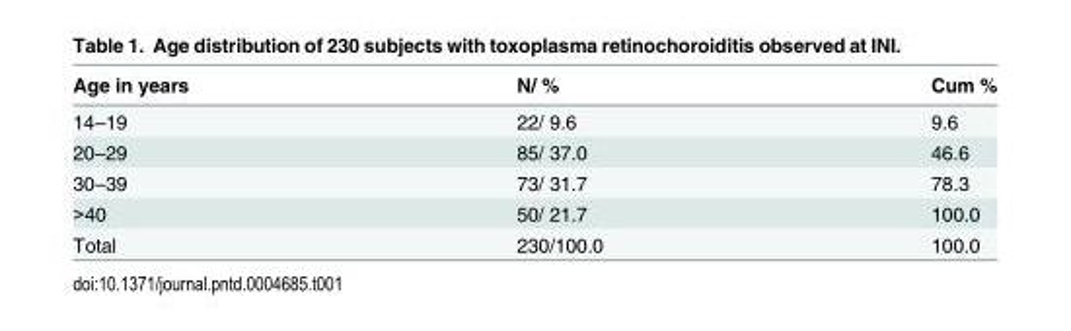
<table><thead><tr><td>Age in years</td><td>N/ %</td><td>Cum %</td></tr></thead><tbody><tr><td>14–19</td><td>22/ 9.6</td><td>9.6</td></tr><tr><td>20–29</td><td>85/ 37.0</td><td>46.6</td></tr><tr><td>30–39</td><td>73/ 31.7</td><td>78.3</td></tr><tr><td>&gt;40</td><td>50/ 21.7</td><td>100.0</td></tr><tr><td>Total</td><td>230/100.0</td><td>100.0</td></tr></tbody></table>